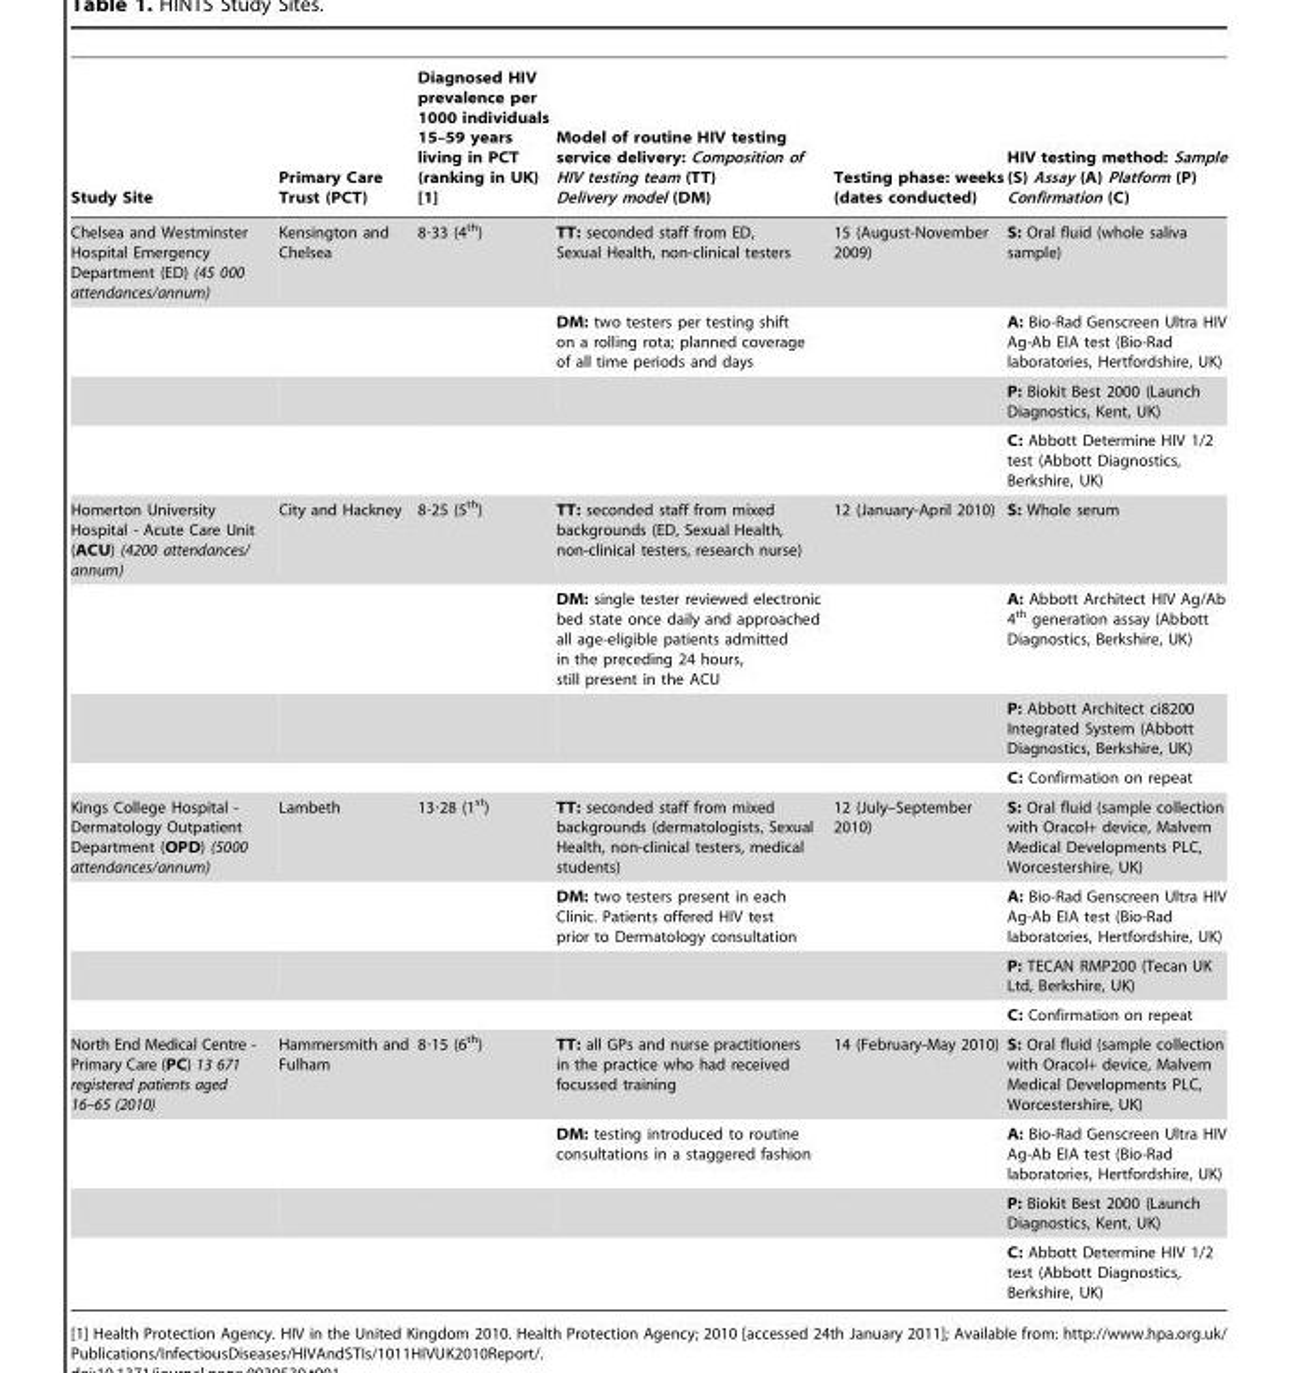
<table><thead><tr><td>Study Site</td><td>Primary Care Trust (PCT)</td><td>Diagnosed HIV prevalence per 1000 individuals 15–59 years living in PCT (ranking in UK) [1]</td><td>Model of routine HIV testing service delivery: Composition of HIV testing team (TT) Delivery model (DM)</td><td>Testing phase: weeks (dates conducted)</td><td>HIV testing method: Sample (S) Assay (A) Platform (P) Confirmation (C)</td></tr></thead><tbody><tr><td rowspan="4">Chelsea and Westminster Hospital Emergency Department (ED) (45 000 attendances/annum)</td><td>Kensington and Chelsea</td><td>8·33 (4<sup>th</sup>)</td><td>TT: seconded staff from ED, Sexual Health, non-clinical testers</td><td>15 (August-November 2009)</td><td>S: Oral fluid (whole saliva sample)</td></tr><tr><td></td><td></td><td>DM: two testers per testing shift on a rolling rota; planned coverage of all time periods and days</td><td></td><td>A: Bio-Rad Genscreen Ultra HIV Ag-Ab EIA test (Bio-Rad laboratories, Hertfordshire, UK)</td></tr><tr><td></td><td></td><td></td><td></td><td>P: Biokit Best 2000 (Launch Diagnostics, Kent, UK)</td></tr><tr><td></td><td></td><td></td><td></td><td>C: Abbott Determine HIV 1/2 test (Abbott Diagnostics, Berkshire, UK)</td></tr><tr><td rowspan="4">Homerton University Hospital - Acute Care Unit (ACU) (4200 attendances/ annum)</td><td>City and Hackney</td><td>8·25 (5<sup>th</sup>)</td><td>TT: seconded staff from mixed backgrounds (ED, Sexual Health, non-clinical testers, research nurse)</td><td>12 (January-April 2010)</td><td>S: Whole serum</td></tr><tr><td></td><td></td><td>DM: single tester reviewed electronic bed state once daily and approached all age-eligible patients admitted in the preceding 24 hours, still present in the ACU</td><td></td><td>A: Abbott Architect HIV Ag/Ab 4<sup>th</sup> generation assay (Abbott Diagnostics, Berkshire, UK)</td></tr><tr><td></td><td></td><td></td><td></td><td>P: Abbott Architect ci8200 Integrated System (Abbott Diagnostics, Berkshire, UK)</td></tr><tr><td></td><td></td><td></td><td></td><td>C: Confirmation on repeat</td></tr><tr><td rowspan="4">Kings College Hospital - Dermatology Outpatient Department (OPD) (5000 attendances/annum)</td><td>Lambeth</td><td>13·28 (1<sup>st</sup>)</td><td>TT: seconded staff from mixed backgrounds (dermatologists, Sexual Health, non-clinical testers, medical students)</td><td>12 (July–September 2010)</td><td>S: Oral fluid (sample collection with Oracol+ device, Malvern Medical Developments PLC, Worcestershire, UK)</td></tr><tr><td></td><td></td><td>DM: two testers present in each Clinic. Patients offered HIV test prior to Dermatology consultation</td><td></td><td>A: Bio-Rad Genscreen Ultra HIV Ag-Ab EIA test (Bio-Rad laboratories, Hertfordshire, UK)</td></tr><tr><td></td><td></td><td></td><td></td><td>P: TECAN RMP200 (Tecan UK Ltd, Berkshire, UK)</td></tr><tr><td></td><td></td><td></td><td></td><td>C: Confirmation on repeat</td></tr><tr><td rowspan="4">North End Medical Centre - Primary Care (PC) 13 671 registered patients aged 16–65 (2010)</td><td>Hammersmith and Fulham</td><td>8·15 (6<sup>th</sup>)</td><td>TT: all GPs and nurse practitioners in the practice who had received focussed training</td><td>14 (February-May 2010)</td><td>S: Oral fluid (sample collection with Oracol+ device, Malvern Medical Developments PLC, Worcestershire, UK)</td></tr><tr><td></td><td></td><td>DM: testing introduced to routine consultations in a staggered fashion</td><td></td><td>A: Bio-Rad Genscreen Ultra HIV Ag-Ab EIA test (Bio-Rad laboratories, Hertfordshire, UK)</td></tr><tr><td></td><td></td><td></td><td></td><td>P: Biokit Best 2000 (Launch Diagnostics, Kent, UK)</td></tr><tr><td></td><td></td><td></td><td></td><td>C: Abbott Determine HIV 1/2 test (Abbott Diagnostics, Berkshire, UK)</td></tr></tbody></table>